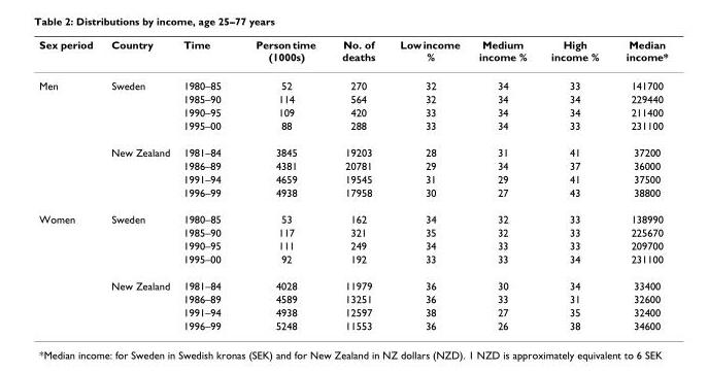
<table><thead><tr><td>Sex period</td><td>Country</td><td>Time</td><td>Person time (1000s)</td><td>No. of deaths</td><td>Low income %</td><td>Medium income %</td><td>High income %</td><td>Median income*</td></tr></thead><tbody><tr><td rowspan="8">Men</td><td>Sweden</td><td>1980–85</td><td>52</td><td>270</td><td>32</td><td>34</td><td>33</td><td>141700</td></tr><tr><td></td><td>1985–90</td><td>114</td><td>564</td><td>32</td><td>34</td><td>34</td><td>229440</td></tr><tr><td></td><td>1990–95</td><td>109</td><td>420</td><td>33</td><td>34</td><td>34</td><td>211400</td></tr><tr><td></td><td>1995–00</td><td>88</td><td>288</td><td>33</td><td>34</td><td>33</td><td>231100</td></tr><tr><td>New Zealand</td><td>1981–84</td><td>3845</td><td>19203</td><td>28</td><td>31</td><td>41</td><td>37200</td></tr><tr><td></td><td>1986–89</td><td>4381</td><td>20781</td><td>29</td><td>34</td><td>37</td><td>36000</td></tr><tr><td></td><td>1991–94</td><td>4659</td><td>19545</td><td>31</td><td>29</td><td>41</td><td>37500</td></tr><tr><td></td><td>1996–99</td><td>4938</td><td>17958</td><td>30</td><td>27</td><td>43</td><td>38800</td></tr><tr><td rowspan="8">Women</td><td>Sweden</td><td>1980–85</td><td>53</td><td>162</td><td>34</td><td>32</td><td>33</td><td>138990</td></tr><tr><td></td><td>1985–90</td><td>117</td><td>321</td><td>35</td><td>32</td><td>33</td><td>225670</td></tr><tr><td></td><td>1990–95</td><td>111</td><td>249</td><td>34</td><td>33</td><td>33</td><td>209700</td></tr><tr><td></td><td>1995–00</td><td>92</td><td>192</td><td>33</td><td>33</td><td>34</td><td>231100</td></tr><tr><td>New Zealand</td><td>1981–84</td><td>4028</td><td>11979</td><td>36</td><td>30</td><td>34</td><td>33400</td></tr><tr><td></td><td>1986–89</td><td>4589</td><td>13251</td><td>36</td><td>33</td><td>31</td><td>32600</td></tr><tr><td></td><td>1991–94</td><td>4938</td><td>12597</td><td>38</td><td>27</td><td>35</td><td>32400</td></tr><tr><td></td><td>1996–99</td><td>5248</td><td>11553</td><td>36</td><td>26</td><td>38</td><td>34600</td></tr></tbody></table>